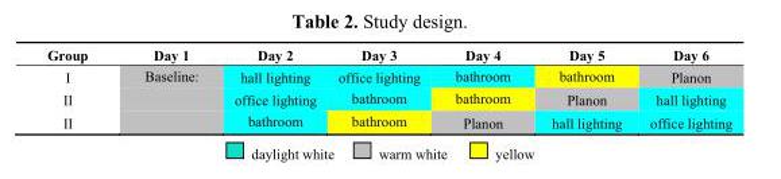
<table><thead><tr><td>Group</td><td>Day 1</td><td>Day 2</td><td>Day 3</td><td>Day 4</td><td>Day 5</td><td>Day 6</td></tr></thead><tbody><tr><td>I</td><td>Baseline:</td><td>hall lighting</td><td>office lighting</td><td>bathroom</td><td>bathroom</td><td>Planon</td></tr><tr><td>II</td><td></td><td>office lighting</td><td>bathroom</td><td>bathroom</td><td>Planon</td><td>hall lighting</td></tr><tr><td>II</td><td></td><td>bathroom</td><td>bathroom</td><td>Planon</td><td>hall lighting</td><td>office lighting</td></tr></tbody></table>